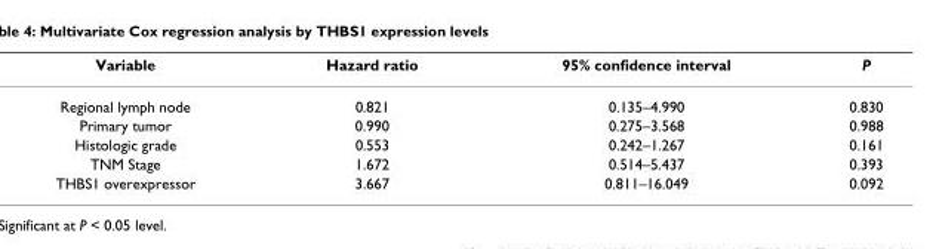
<table><thead><tr><td>Variable</td><td>Hazard ratio</td><td>95% confidence interval</td><td>P</td></tr></thead><tbody><tr><td>Regional lymph node</td><td>0.821</td><td>0.135–4.990</td><td>0.830</td></tr><tr><td>Primary tumor</td><td>0.990</td><td>0.275–3.568</td><td>0.988</td></tr><tr><td>Histologic grade</td><td>0.553</td><td>0.242–1.267</td><td>0.161</td></tr><tr><td>TNM Stage</td><td>1.672</td><td>0.514–5.437</td><td>0.393</td></tr><tr><td>THBS1 overexpressor</td><td>3.667</td><td>0.811–16.049</td><td>0.092</td></tr></tbody></table>